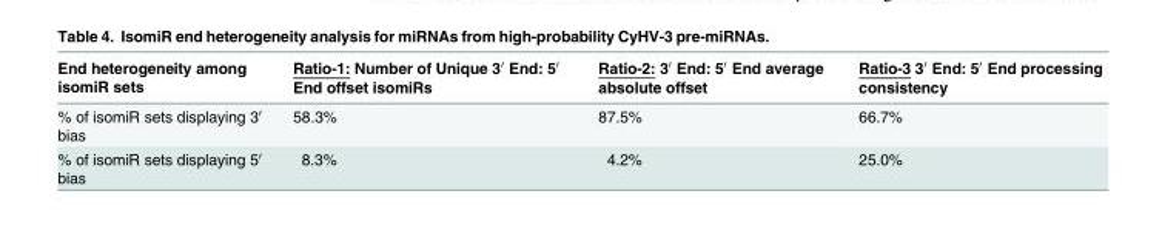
<table><thead><tr><td>End heterogeneity among isomiR sets</td><td>Ratio-1: Number of Unique 3′ End: 5′ End offset isomiRs</td><td>Ratio-2: 3′ End: 5′ End average absolute offset</td><td>Ratio-3 3′ End: 5′ End processing consistency</td></tr></thead><tbody><tr><td>% of isomiR sets displaying 3′ bias</td><td>58.3%</td><td>87.5%</td><td>66.7%</td></tr><tr><td>% of isomiR sets displaying 5′ bias</td><td>8.3%</td><td>4.2%</td><td>25.0%</td></tr></tbody></table>